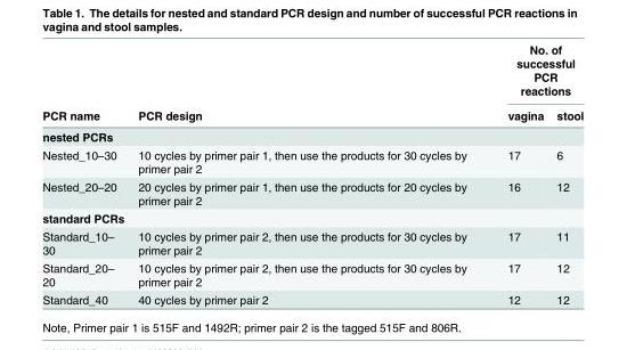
<table><thead><tr><td rowspan="2">PCR name</td><td rowspan="2">PCR design</td><td colspan="2">No. of successful PCR reactions</td></tr><tr><td>vagina</td><td>stool</td></tr></thead><tbody><tr><td colspan="4">nested PCRs</td></tr><tr><td>Nested_10–30</td><td>10 cycles by primer pair 1, then use the products for 30 cycles by primer pair 2</td><td>17</td><td>6</td></tr><tr><td>Nested_20–20</td><td>20 cycles by primer pair 1, then use the products for 20 cycles by primer pair 2</td><td>16</td><td>12</td></tr><tr><td colspan="4">standard PCRs</td></tr><tr><td>Standard_10– 30</td><td>10 cycles by primer pair 2, then use the products for 30 cycles by primer pair 2</td><td>17</td><td>11</td></tr><tr><td>Standard_20– 20</td><td>10 cycles by primer pair 2, then use the products for 30 cycles by primer pair 2</td><td>17</td><td>12</td></tr><tr><td>Standard_40</td><td>40 cycles by primer pair 2</td><td>12</td><td>12</td></tr></tbody></table>